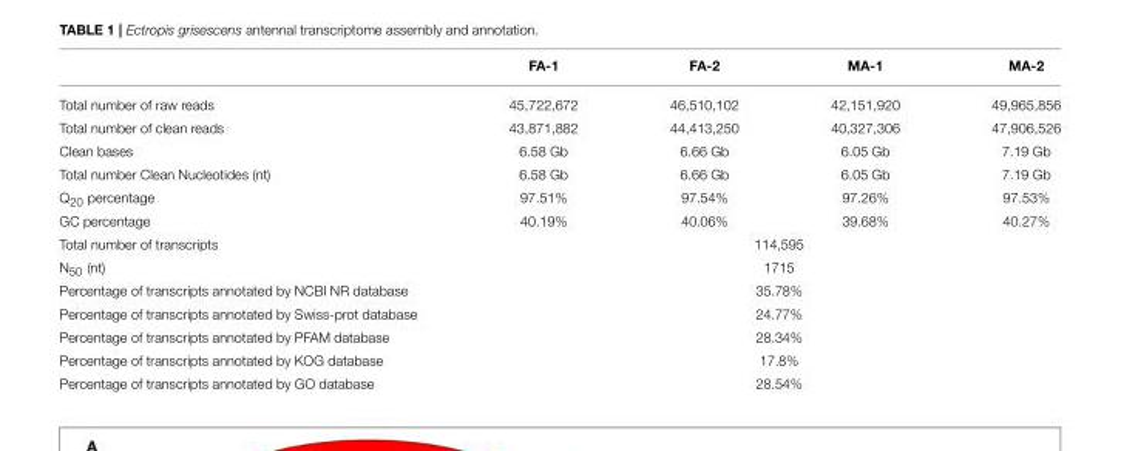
<table><thead><tr><td></td><td>FA-1</td><td>FA-2</td><td>MA-1</td><td>MA-2</td></tr></thead><tbody><tr><td>Total number of raw reads</td><td>45,722,672</td><td>46,510,102</td><td>42,151,920</td><td>49,965,856</td></tr><tr><td>Total number of clean reads</td><td>43,871,882</td><td>44,413,250</td><td>40,327,306</td><td>47,906,526</td></tr><tr><td>Clean bases</td><td>6.58 Gb</td><td>6.66 Gb</td><td>6.05 Gb</td><td>7.19 Gb</td></tr><tr><td>Total number Clean Nucleotides (nt)</td><td>6.58 Gb</td><td>6.66 Gb</td><td>6.05 Gb</td><td>7.19 Gb</td></tr><tr><td>Q<sub>20</sub> percentage</td><td>97.51%</td><td>97.54%</td><td>97.26%</td><td>97.53%</td></tr><tr><td>GC percentage</td><td>40.19%</td><td>40.06%</td><td>39.68%</td><td>40.27%</td></tr><tr><td>Total number of transcripts</td><td colspan="4">114,595</td></tr><tr><td>N<sub>50</sub> (nt)</td><td colspan="4">1715</td></tr><tr><td>Percentage of transcripts annotated by NCBI NR database</td><td colspan="4">35.78%</td></tr><tr><td>Percentage of transcripts annotated by Swiss-prot database</td><td colspan="4">24.77%</td></tr><tr><td>Percentage of transcripts annotated by PFAM database</td><td colspan="4">28.34%</td></tr><tr><td>Percentage of transcripts annotated by KOG database</td><td colspan="4">17.8%</td></tr><tr><td>Percentage of transcripts annotated by GO database</td><td colspan="4">28.54%</td></tr></tbody></table>